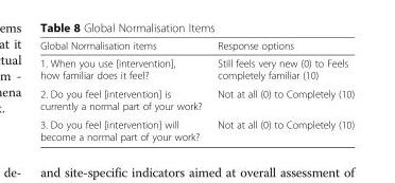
<table><thead><tr><td>Global Normalisation items</td><td>Response options</td></tr></thead><tbody><tr><td>1. When you use [intervention], how familiar does it feel?</td><td>Still feels very new (0) to Feels completely familiar (10)</td></tr><tr><td>2. Do you feel [intervention] is currently a normal part of your work?</td><td>Not at all (0) to Completely (10)</td></tr><tr><td>3. Do you feel [intervention] will become a normal part of your work?</td><td>Not at all (0) to Completely (10)</td></tr></tbody></table>